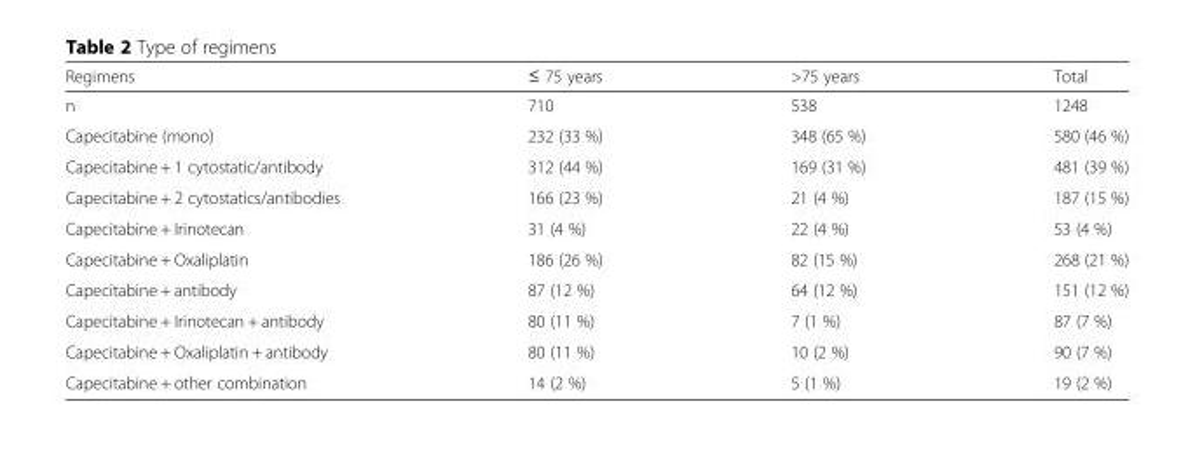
<table><thead><tr><td>Regimens</td><td>≤ 75 years</td><td>&gt;75 years</td><td>Total</td></tr></thead><tbody><tr><td>n</td><td>710</td><td>538</td><td>1248</td></tr><tr><td>Capecitabine (mono)</td><td>232 (33 %)</td><td>348 (65 %)</td><td>580 (46 %)</td></tr><tr><td>Capecitabine + 1 cytostatic/antibody</td><td>312 (44 %)</td><td>169 (31 %)</td><td>481 (39 %)</td></tr><tr><td>Capecitabine + 2 cytostatics/antibodies</td><td>166 (23 %)</td><td>21 (4 %)</td><td>187 (15 %)</td></tr><tr><td>Capecitabine + Irinotecan</td><td>31 (4 %)</td><td>22 (4 %)</td><td>53 (4 %)</td></tr><tr><td>Capecitabine + Oxaliplatin</td><td>186 (26 %)</td><td>82 (15 %)</td><td>268 (21 %)</td></tr><tr><td>Capecitabine + antibody</td><td>87 (12 %)</td><td>64 (12 %)</td><td>151 (12 %)</td></tr><tr><td>Capecitabine + Irinotecan + antibody</td><td>80 (11 %)</td><td>7 (1 %)</td><td>87 (7 %)</td></tr><tr><td>Capecitabine + Oxaliplatin + antibody</td><td>80 (11 %)</td><td>10 (2 %)</td><td>90 (7 %)</td></tr><tr><td>Capecitabine + other combination</td><td>14 (2 %)</td><td>5 (1 %)</td><td>19 (2 %)</td></tr></tbody></table>